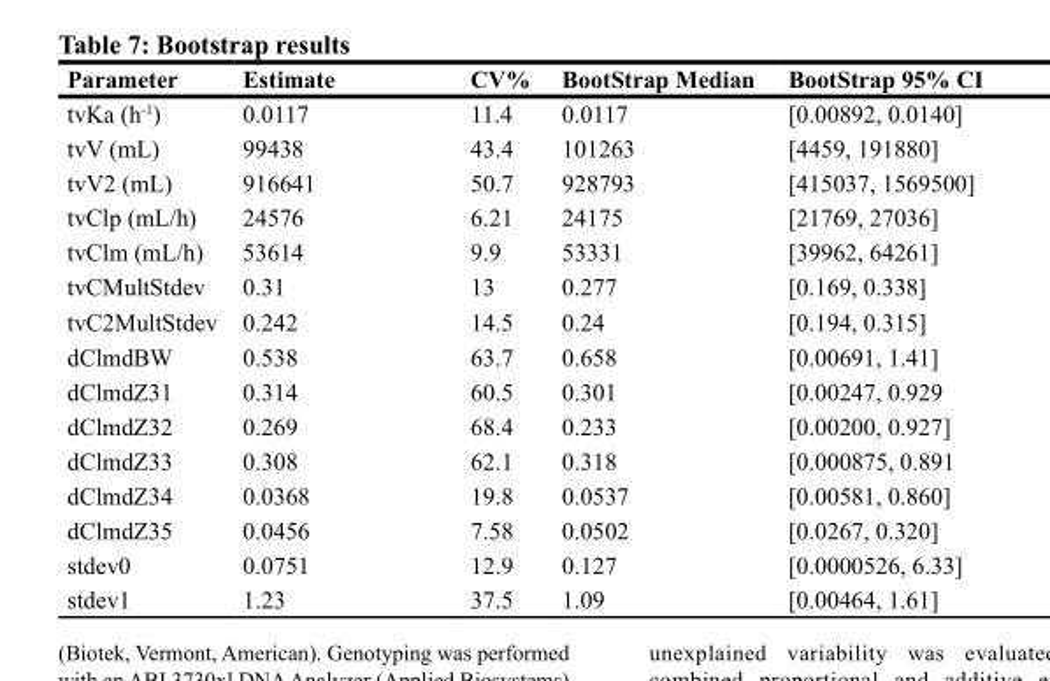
<table><thead><tr><td>Parameter</td><td>Estimate</td><td>CV%</td><td>BootStrap Median</td><td>BootStrap 95% CI</td></tr></thead><tbody><tr><td>tvKa (h<sup>-1</sup>)</td><td>0.0117</td><td>11.4</td><td>0.0117</td><td>[0.00892, 0.0140]</td></tr><tr><td>tvV (mL)</td><td>99438</td><td>43.4</td><td>101263</td><td>[4459, 191880]</td></tr><tr><td>tvV2 (mL)</td><td>916641</td><td>50.7</td><td>928793</td><td>[415037, 1569500]</td></tr><tr><td>tvClp (mL/h)</td><td>24576</td><td>6.21</td><td>24175</td><td>[21769, 27036]</td></tr><tr><td>tvClm (mL/h)</td><td>53614</td><td>9.9</td><td>53331</td><td>[39962, 64261]</td></tr><tr><td>tvCMultStdev</td><td>0.31</td><td>13</td><td>0.277</td><td>[0.169, 0.338]</td></tr><tr><td>tvC2MultStdev</td><td>0.242</td><td>14.5</td><td>0.24</td><td>[0.194, 0.315]</td></tr><tr><td>dClmdBW</td><td>0.538</td><td>63.7</td><td>0.658</td><td>[0.00691, 1.41]</td></tr><tr><td>dClmdZ31</td><td>0.314</td><td>60.5</td><td>0.301</td><td>[0.00247, 0.929</td></tr><tr><td>dClmdZ32</td><td>0.269</td><td>68.4</td><td>0.233</td><td>[0.00200, 0.927]</td></tr><tr><td>dClmdZ33</td><td>0.308</td><td>62.1</td><td>0.318</td><td>[0.000875, 0.891</td></tr><tr><td>dClmdZ34</td><td>0.0368</td><td>19.8</td><td>0.0537</td><td>[0.00581, 0.860]</td></tr><tr><td>dClmdZ35</td><td>0.0456</td><td>7.58</td><td>0.0502</td><td>[0.0267, 0.320]</td></tr><tr><td>stdev0</td><td>0.0751</td><td>12.9</td><td>0.127</td><td>[0.0000526, 6.33]</td></tr><tr><td>stdev1</td><td>1.23</td><td>37.5</td><td>1.09</td><td>[0.00464, 1.61]</td></tr></tbody></table>